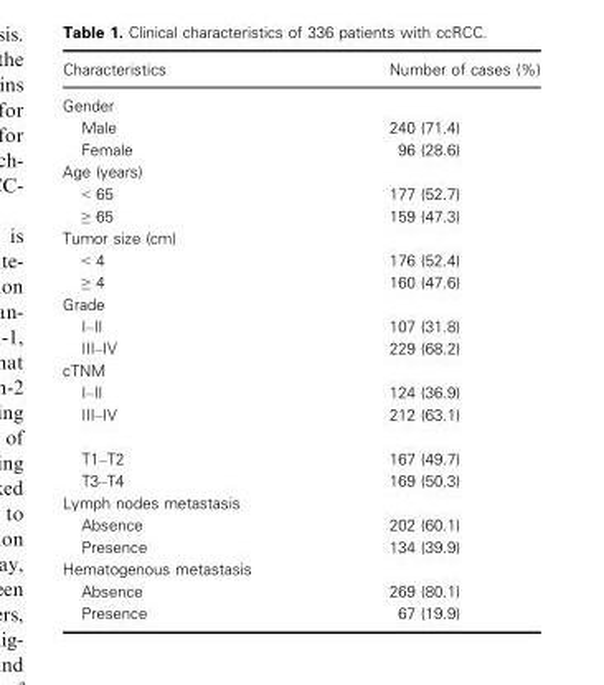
<table><thead><tr><td>Characteristics</td><td>Number of cases (%)</td></tr></thead><tbody><tr><td colspan="2">Gender</td></tr><tr><td>Male</td><td>240 (71.4)</td></tr><tr><td>Female</td><td>96 (28.6)</td></tr><tr><td colspan="2">Age (years)</td></tr><tr><td>&lt; 65</td><td>177 (52.7)</td></tr><tr><td>≥ 65</td><td>159 (47.3)</td></tr><tr><td colspan="2">Tumor size (cm)</td></tr><tr><td>&lt; 4</td><td>176 (52.4)</td></tr><tr><td>≥ 4</td><td>160 (47.6)</td></tr><tr><td colspan="2">Grade</td></tr><tr><td>I–II</td><td>107 (31.8)</td></tr><tr><td>III–IV</td><td>229 (68.2)</td></tr><tr><td colspan="2">cTNM</td></tr><tr><td>I–II</td><td>124 (36.9)</td></tr><tr><td>III–IV</td><td>212 (63.1)</td></tr><tr><td>T1–T2</td><td>167 (49.7)</td></tr><tr><td>T3–T4</td><td>169 (50.3)</td></tr><tr><td colspan="2">Lymph nodes metastasis</td></tr><tr><td>Absence</td><td>202 (60.1)</td></tr><tr><td>Presence</td><td>134 (39.9)</td></tr><tr><td colspan="2">Hematogenous metastasis</td></tr><tr><td>Absence</td><td>269 (80.1)</td></tr><tr><td>Presence</td><td>67 (19.9)</td></tr></tbody></table>